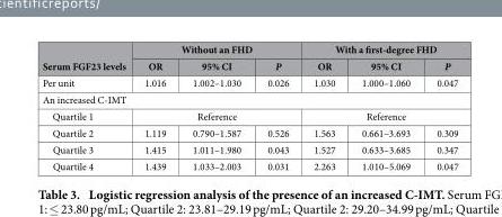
<table><thead><tr><td rowspan="2">Serum FGF23 levels</td><td colspan="3">Without an FHD</td><td colspan="3">With a first-degree FHD</td></tr><tr><td>OR</td><td>95% CI</td><td>P</td><td>OR</td><td>95% CI</td><td>P</td></tr></thead><tbody><tr><td>Per unit</td><td>1.016</td><td>1.002–1.030</td><td>0.026</td><td>1.030</td><td>1.000–1.060</td><td>0.047</td></tr><tr><td colspan="7">An increased C-IMT</td></tr><tr><td>Quartile 1</td><td colspan="3">Reference</td><td colspan="3">Reference</td></tr><tr><td>Quartile 2</td><td>1.119</td><td>0.790–1.587</td><td>0.526</td><td>1.563</td><td>0.661–3.693</td><td>0.309</td></tr><tr><td>Quartile 3</td><td>1.415</td><td>1.011–1.980</td><td>0.043</td><td>1.527</td><td>0.633–3.685</td><td>0.347</td></tr><tr><td>Quartile 4</td><td>1.439</td><td>1.033–2.003</td><td>0.031</td><td>2.263</td><td>1.010–5.069</td><td>0.047</td></tr></tbody></table>